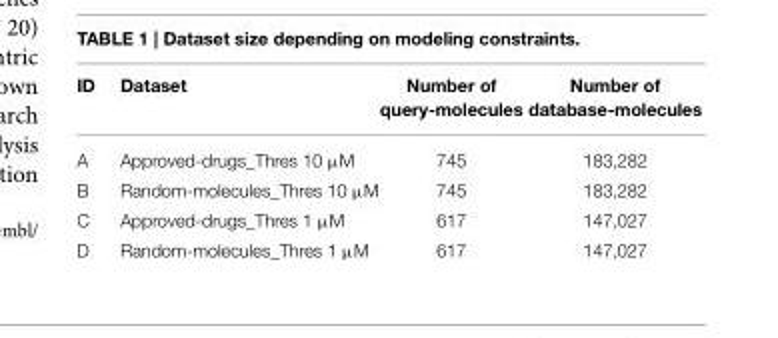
<table><thead><tr><td>ID</td><td>Dataset</td><td>Number of query-molecules</td><td>Number of database-molecules</td></tr></thead><tbody><tr><td>A</td><td>Approved-drugs_Thres 10 µM</td><td>745</td><td>183,282</td></tr><tr><td>B</td><td>Random-molecules_Thres 10 µM</td><td>745</td><td>183,282</td></tr><tr><td>C</td><td>Approved-drugs_Thres 1 µM</td><td>617</td><td>147,027</td></tr><tr><td>D</td><td>Random-molecules_Thres 1 µM</td><td>617</td><td>147,027</td></tr></tbody></table>